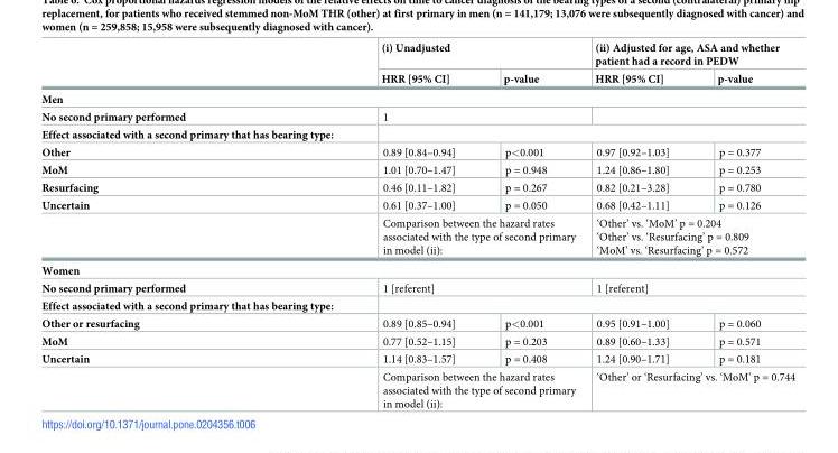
<table><thead><tr><td rowspan="2"></td><td colspan="2">(i) Unadjusted</td><td colspan="2">(ii) Adjusted for age, ASA and whether patient had a record in PEDW</td></tr><tr><td>HRR [95% CI]</td><td>p-value</td><td>HRR [95% CI]</td><td>p-value</td></tr></thead><tbody><tr><td colspan="5">Men</td></tr><tr><td>No second primary performed</td><td colspan="2">1</td><td colspan="2"></td></tr><tr><td colspan="5">Effect associated with a second primary that has bearing type:</td></tr><tr><td>Other</td><td>0.89 [0.84–0.94]</td><td>p&lt;0.001</td><td>0.97 [0.92–1.03]</td><td>p = 0.377</td></tr><tr><td>MoM</td><td>1.01 [0.70–1.47]</td><td>p = 0.948</td><td>1.24 [0.86–1.80]</td><td>p = 0.253</td></tr><tr><td>Resurfacing</td><td>0.46 [0.11–1.82]</td><td>p = 0.267</td><td>0.82 [0.21–3.28]</td><td>p = 0.780</td></tr><tr><td rowspan="2">Uncertain</td><td>0.61 [0.37–1.00]</td><td>p = 0.050</td><td>0.68 [0.42–1.11]</td><td>p = 0.126</td></tr><tr><td colspan="2">Comparison between the hazard rates associated with the type of second primary in model (ii):</td><td colspan="2">‘Other’ vs. ‘MoM’ p = 0.204 ‘Other’ vs. ‘Resurfacing’ p = 0.809 ‘MoM’ vs. ‘Resurfacing’ p = 0.572</td></tr><tr><td colspan="5">Women</td></tr><tr><td>No second primary performed</td><td colspan="2">1 [referent]</td><td colspan="2">1 [referent]</td></tr><tr><td colspan="5">Effect associated with a second primary that has bearing type:</td></tr><tr><td>Other or resurfacing</td><td>0.89 [0.85–0.94]</td><td>p&lt;0.001</td><td>0.95 [0.91–1.00]</td><td>p = 0.060</td></tr><tr><td>MoM</td><td>0.77 [0.52–1.15]</td><td>p = 0.203</td><td>0.89 [0.60–1.33]</td><td>p = 0.571</td></tr><tr><td rowspan="2">Uncertain</td><td>1.14 [0.83–1.57]</td><td>p = 0.408</td><td>1.24 [0.90–1.71]</td><td>p = 0.181</td></tr><tr><td colspan="2">Comparison between the hazard rates associated with the type of second primary in model (ii):</td><td colspan="2">‘Other’ or ‘Resurfacing’ vs. ‘MoM’ p = 0.744</td></tr></tbody></table>